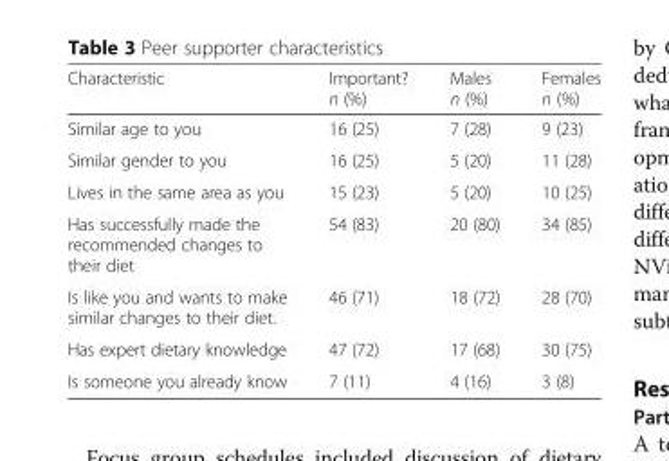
<table><thead><tr><td>Characteristic</td><td>Important? n (%)</td><td>Males n (%)</td><td>Females n (%)</td></tr></thead><tbody><tr><td>Similar age to you</td><td>16 (25)</td><td>7 (28)</td><td>9 (23)</td></tr><tr><td>Similar gender to you</td><td>16 (25)</td><td>5 (20)</td><td>11 (28)</td></tr><tr><td>Lives in the same area as you</td><td>15 (23)</td><td>5 (20)</td><td>10 (25)</td></tr><tr><td>Has successfully made the recommended changes to their diet</td><td>54 (83)</td><td>20 (80)</td><td>34 (85)</td></tr><tr><td>Is like you and wants to make similar changes to their diet.</td><td>46 (71)</td><td>18 (72)</td><td>28 (70)</td></tr><tr><td>Has expert dietary knowledge</td><td>47 (72)</td><td>17 (68)</td><td>30 (75)</td></tr><tr><td>Is someone you already know</td><td>7 (11)</td><td>4 (16)</td><td>3 (8)</td></tr></tbody></table>